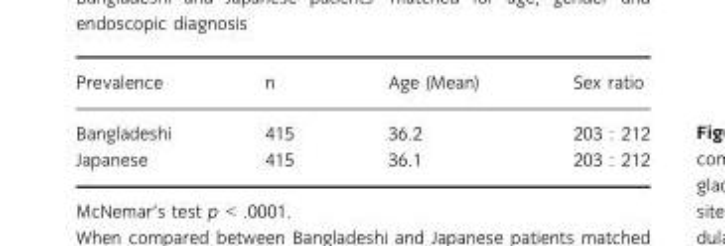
<table><thead><tr><td>Prevalence</td><td>n</td><td>Age (Mean)</td><td>Sex ratio</td></tr></thead><tbody><tr><td>Bangladeshi</td><td>415</td><td>36.2</td><td>203 : 212</td></tr><tr><td>Japanese</td><td>415</td><td>36.1</td><td>203 : 212</td></tr></tbody></table>